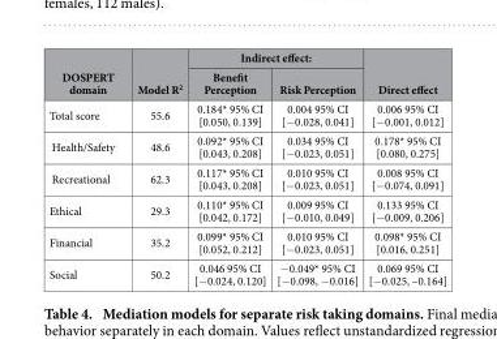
<table><thead><tr><td rowspan="2">DOSPERT domain</td><td rowspan="2">Model R<sup>2</sup></td><td colspan="2">Indirect effect:</td><td rowspan="2">Direct effect</td></tr><tr><td>Benefit Perception</td><td>Risk Perception</td></tr></thead><tbody><tr><td>Total score</td><td>55.6</td><td>0.184* 95% CI [0.050, 0.139]</td><td>0.004 95% CI [− 0.028, 0.041]</td><td>0.006 95% CI [− 0.001, 0.012]</td></tr><tr><td>Health/Safety</td><td>48.6</td><td>0.092* 95% CI [0.043, 0.208]</td><td>0.034 95% CI [− 0.023, 0.051]</td><td>0.178* 95% CI [0.080, 0.275]</td></tr><tr><td>Recreational</td><td>62.3</td><td>0.117* 95% CI [0.043, 0.208]</td><td>0.010 95% CI [− 0.023, 0.051]</td><td>0.008 95% CI [− 0.074, 0.091]</td></tr><tr><td>Ethical</td><td>29.3</td><td>0.110* 95% CI [0.042, 0.172]</td><td>0.009 95% CI [− 0.010, 0.049]</td><td>0.133 95% CI [− 0.009, 0.206]</td></tr><tr><td>Financial</td><td>35.2</td><td>0.099* 95% CI [0.052, 0.212]</td><td>0.010 95% CI [− 0.023, 0.051]</td><td>0.098* 95% CI [0.016, 0.251]</td></tr><tr><td>Social</td><td>50.2</td><td>0.046 95% CI [− 0.024, 0.120]</td><td>− 0.049* 95% CI [− 0.098, − 0.016]</td><td>0.069 95% CI [− 0.025, –0.164]</td></tr></tbody></table>